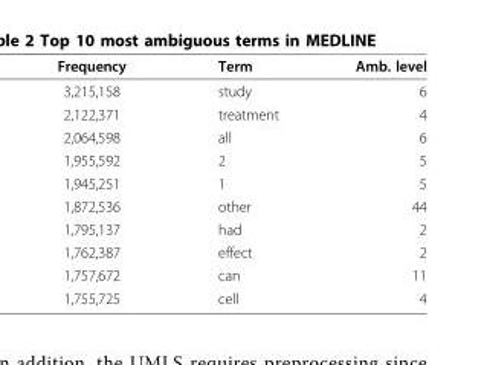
<table><thead><tr><td>Frequency</td><td>Term</td><td>Amb. level</td></tr></thead><tbody><tr><td>3,215,158</td><td>study</td><td>6</td></tr><tr><td>2,122,371</td><td>treatment</td><td>4</td></tr><tr><td>2,064,598</td><td>all</td><td>6</td></tr><tr><td>1,955,592</td><td>2</td><td>5</td></tr><tr><td>1,945,251</td><td>1</td><td>5</td></tr><tr><td>1,872,536</td><td>other</td><td>44</td></tr><tr><td>1,795,137</td><td>had</td><td>2</td></tr><tr><td>1,762,387</td><td>effect</td><td>2</td></tr><tr><td>1,757,672</td><td>can</td><td>11</td></tr><tr><td>1,755,725</td><td>cell</td><td>4</td></tr></tbody></table>